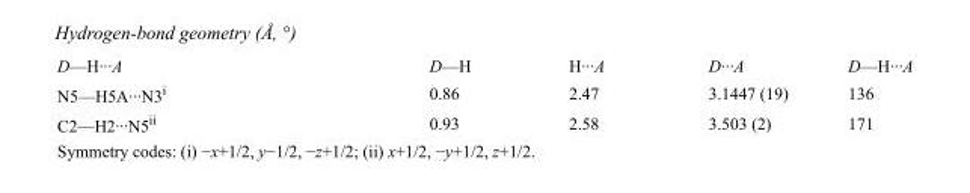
<table><tbody><tr><td>D—H···A</td><td>D—H</td><td>H···A</td><td>D···A</td><td>D—H···A</td></tr><tr><td>N5—H5A···N3<sup>i</sup></td><td>0.86</td><td>2.47</td><td>3.1447 (19)</td><td>136</td></tr><tr><td>C2—H2···N5<sup>ii</sup></td><td>0.93</td><td>2.58</td><td>3.503 (2)</td><td>171</td></tr></tbody></table>